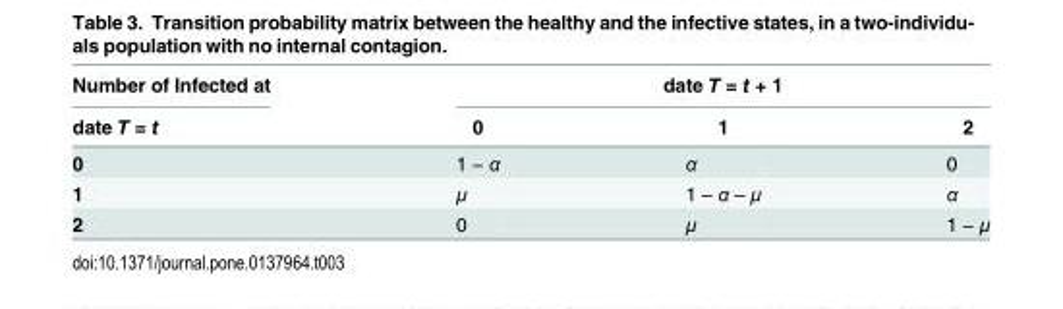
<table><thead><tr><td rowspan="2">Number of Infected at date T = t</td><td colspan="3">date T = t + 1</td></tr><tr><td>0</td><td>1</td><td>2</td></tr></thead><tbody><tr><td>0</td><td>1 − α</td><td>α</td><td>0</td></tr><tr><td>1</td><td>μ</td><td>1 – α – μ</td><td>α</td></tr><tr><td>2</td><td>0</td><td>μ</td><td>1 − μ</td></tr></tbody></table>